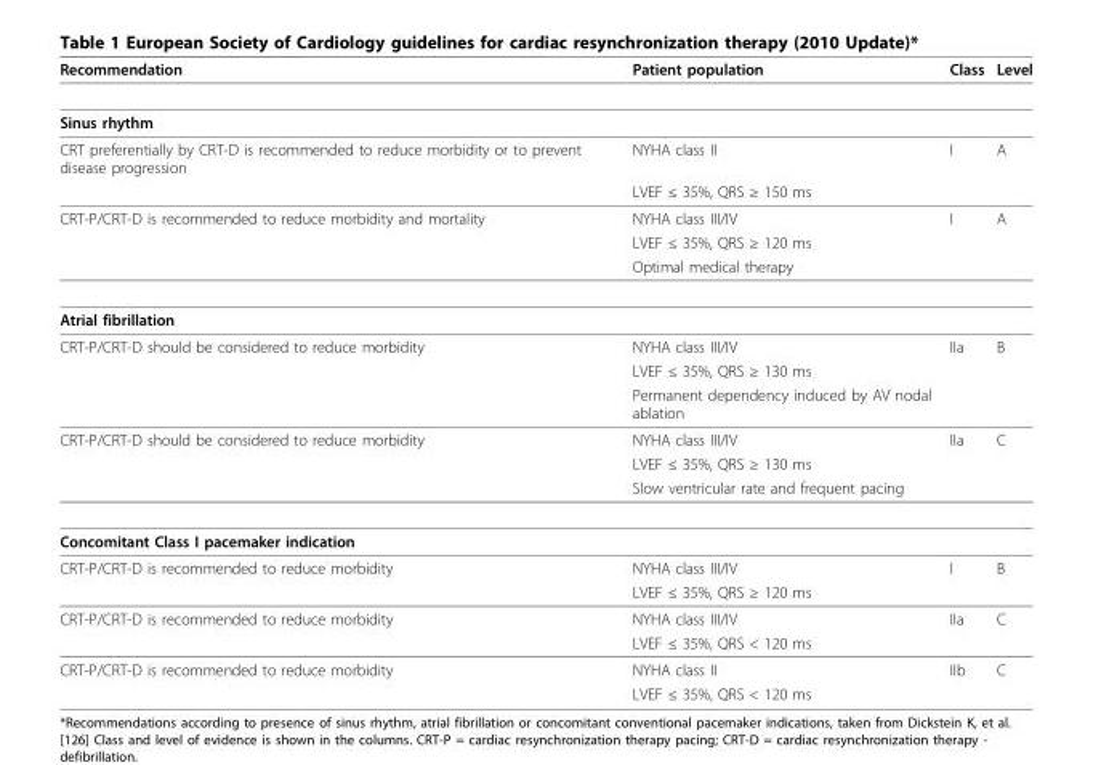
<table><thead><tr><td>Recommendation</td><td>Patient population</td><td>Class</td><td>Level</td></tr></thead><tbody><tr><td colspan="4">Sinus rhythm</td></tr><tr><td rowspan="2">CRT preferentially by CRT-D is recommended to reduce morbidity or to prevent disease progression</td><td>NYHA class II</td><td>I</td><td>A</td></tr><tr><td>LVEF ≤ 35%, QRS ≥ 150 ms</td><td></td><td></td></tr><tr><td rowspan="3">CRT-P/CRT-D is recommended to reduce morbidity and mortality</td><td>NYHA class III/IV</td><td>I</td><td>A</td></tr><tr><td>LVEF ≤ 35%, QRS ≥ 120 ms</td><td></td><td></td></tr><tr><td>Optimal medical therapy</td><td></td><td></td></tr><tr><td colspan="4">Atrial fibrillation</td></tr><tr><td rowspan="3">CRT-P/CRT-D should be considered to reduce morbidity</td><td>NYHA class III/IV</td><td>IIa</td><td>B</td></tr><tr><td>LVEF ≤ 35%, QRS ≥ 130 ms</td><td></td><td></td></tr><tr><td>Permanent dependency induced by AV nodal ablation</td><td></td><td></td></tr><tr><td rowspan="3">CRT-P/CRT-D should be considered to reduce morbidity</td><td>NYHA class III/IV</td><td>IIa</td><td>C</td></tr><tr><td>LVEF ≤ 35%, QRS ≥ 130 ms</td><td></td><td></td></tr><tr><td>Slow ventricular rate and frequent pacing</td><td></td><td></td></tr><tr><td colspan="4">Concomitant Class I pacemaker indication</td></tr><tr><td rowspan="2">CRT-P/CRT-D is recommended to reduce morbidity</td><td>NYHA class III/IV</td><td>I</td><td>B</td></tr><tr><td>LVEF ≤ 35%, QRS ≥ 120 ms</td><td></td><td></td></tr><tr><td rowspan="2">CRT-P/CRT-D is recommended to reduce morbidity</td><td>NYHA class III/IV</td><td>IIa</td><td>C</td></tr><tr><td>LVEF ≤ 35%, QRS &lt; 120 ms</td><td></td><td></td></tr><tr><td rowspan="2">CRT-P/CRT-D is recommended to reduce morbidity</td><td>NYHA class II</td><td>IIb</td><td>C</td></tr><tr><td>LVEF ≤ 35%, QRS &lt; 120 ms</td><td></td><td></td></tr></tbody></table>